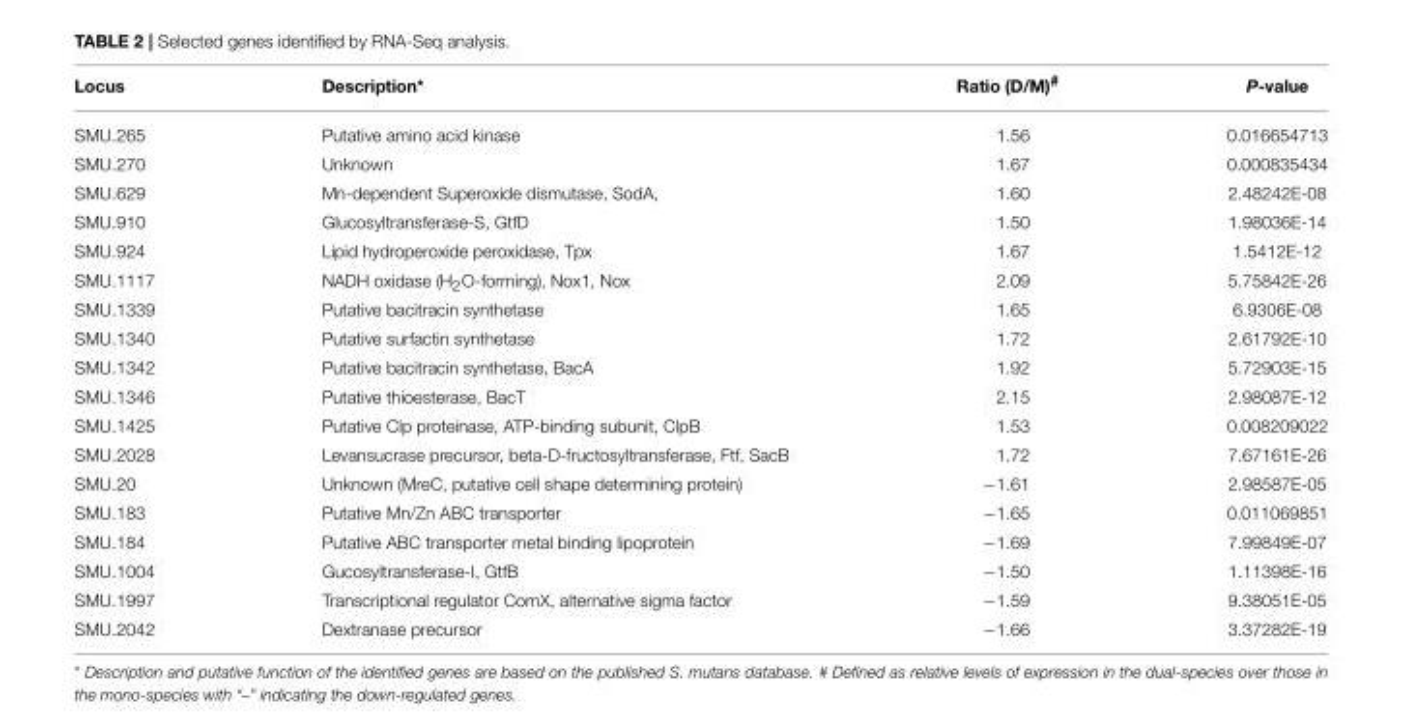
<table><thead><tr><td>Locus</td><td>Description*</td><td>Ratio (D/M)<sup>#</sup></td><td>P-value</td></tr></thead><tbody><tr><td>SMU.265</td><td>Putative amino acid kinase</td><td>1.56</td><td>0.016654713</td></tr><tr><td>SMU.270</td><td>Unknown</td><td>1.67</td><td>0.000835434</td></tr><tr><td>SMU.629</td><td>Mn-dependent Superoxide dismutase, SodA,</td><td>1.60</td><td>2.48242E-08</td></tr><tr><td>SMU.910</td><td>Glucosyltransferase-S, GtfD</td><td>1.50</td><td>1.98036E-14</td></tr><tr><td>SMU.924</td><td>Lipid hydroperoxide peroxidase, Tpx</td><td>1.67</td><td>1.5412E-12</td></tr><tr><td>SMU.1117</td><td>NADH oxidase (H<sub>2</sub>O-forming), Nox1, Nox</td><td>2.09</td><td>5.75842E-26</td></tr><tr><td>SMU.1339</td><td>Putative bacitracin synthetase</td><td>1.65</td><td>6.9306E-08</td></tr><tr><td>SMU.1340</td><td>Putative surfactin synthetase</td><td>1.72</td><td>2.61792E-10</td></tr><tr><td>SMU.1342</td><td>Putative bacitracin synthetase, BacA</td><td>1.92</td><td>5.72903E-15</td></tr><tr><td>SMU.1346</td><td>Putative thioesterase, BacT</td><td>2.15</td><td>2.98087E-12</td></tr><tr><td>SMU.1425</td><td>Putative Clp proteinase, ATP-binding subunit, ClpB</td><td>1.53</td><td>0.008209022</td></tr><tr><td>SMU.2028</td><td>Levansucrase precursor, beta-D-fructosyltransferase, Ftf, SacB</td><td>1.72</td><td>7.67161E-26</td></tr><tr><td>SMU.20</td><td>Unknown (MreC, putative cell shape determining protein)</td><td>−1.61</td><td>2.98587E-05</td></tr><tr><td>SMU.183</td><td>Putative Mn/Zn ABC transporter</td><td>−1.65</td><td>0.011069851</td></tr><tr><td>SMU.184</td><td>Putative ABC transporter metal binding lipoprotein</td><td>−1.69</td><td>7.99849E-07</td></tr><tr><td>SMU.1004</td><td>Gucosyltransferase-I, GtfB</td><td>−1.50</td><td>1.11398E-16</td></tr><tr><td>SMU.1997</td><td>Transcriptional regulator ComX, alternative sigma factor</td><td>−1.59</td><td>9.38051E-05</td></tr><tr><td>SMU.2042</td><td>Dextranase precursor</td><td>−1.66</td><td>3.37282E-19</td></tr></tbody></table>